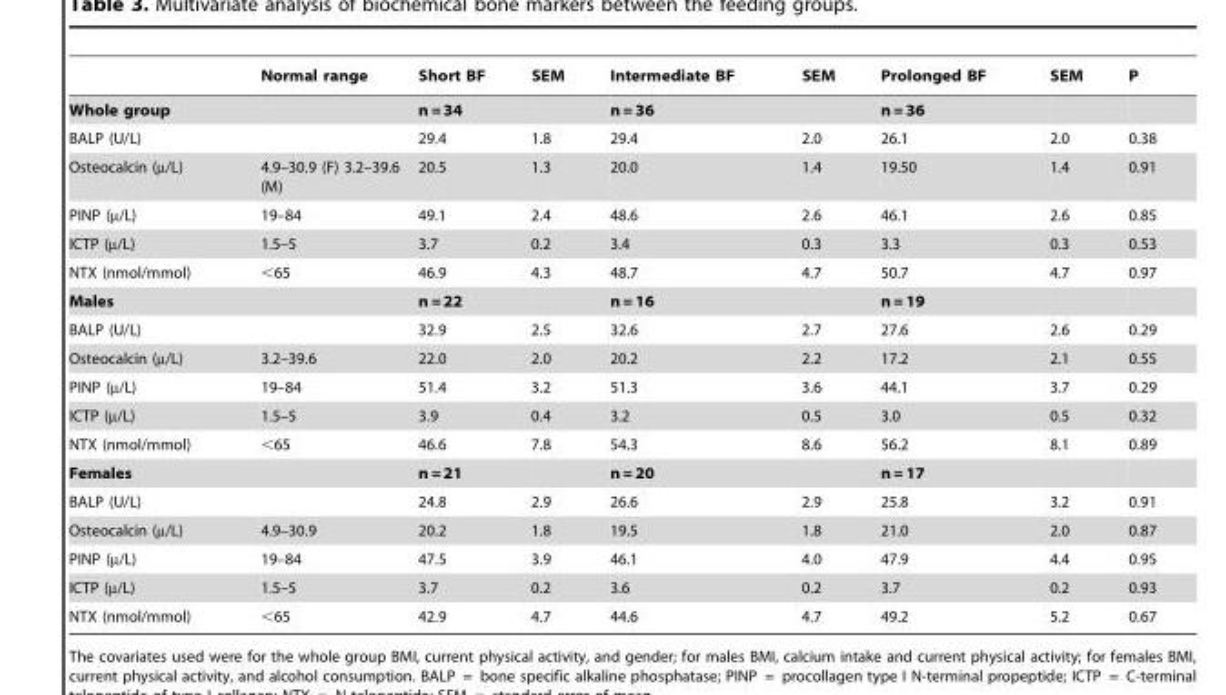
<table><thead><tr><td></td><td>Normal range</td><td>Short BF</td><td>SEM</td><td>Intermediate BF</td><td>SEM</td><td>Prolonged BF</td><td>SEM</td><td>P</td></tr></thead><tbody><tr><td colspan="2">Whole group</td><td>n = 34</td><td></td><td>n = 36</td><td></td><td>n = 36</td><td></td><td></td></tr><tr><td>BALP (U/L)</td><td></td><td>29.4</td><td>1.8</td><td>29.4</td><td>2.0</td><td>26.1</td><td>2.0</td><td>0.38</td></tr><tr><td>Osteocalcin (µ/L)</td><td>4.9–30.9 (F) 3.2–39.6 (M)</td><td>20.5</td><td>1.3</td><td>20.0</td><td>1.4</td><td>19.50</td><td>1.4</td><td>0.91</td></tr><tr><td>PINP (µ/L)</td><td>19–84</td><td>49.1</td><td>2.4</td><td>48.6</td><td>2.6</td><td>46.1</td><td>2.6</td><td>0.85</td></tr><tr><td>ICTP (µ/L)</td><td>1.5–5</td><td>3.7</td><td>0.2</td><td>3.4</td><td>0.3</td><td>3.3</td><td>0.3</td><td>0.53</td></tr><tr><td>NTX (nmol/mmol)</td><td>&lt;65</td><td>46.9</td><td>4.3</td><td>48.7</td><td>4.7</td><td>50.7</td><td>4.7</td><td>0.97</td></tr><tr><td colspan="2">Males</td><td>n = 22</td><td></td><td>n = 16</td><td></td><td>n = 19</td><td></td><td></td></tr><tr><td>BALP (U/L)</td><td></td><td>32.9</td><td>2.5</td><td>32.6</td><td>2.7</td><td>27.6</td><td>2.6</td><td>0.29</td></tr><tr><td>Osteocalcin (µ/L)</td><td>3.2–39.6</td><td>22.0</td><td>2.0</td><td>20.2</td><td>2.2</td><td>17.2</td><td>2.1</td><td>0.55</td></tr><tr><td>PINP (µ/L)</td><td>19–84</td><td>51.4</td><td>3.2</td><td>51.3</td><td>3.6</td><td>44.1</td><td>3.7</td><td>0.29</td></tr><tr><td>ICTP (µ/L)</td><td>1.5–5</td><td>3.9</td><td>0.4</td><td>3.2</td><td>0.5</td><td>3.0</td><td>0.5</td><td>0.32</td></tr><tr><td>NTX (nmol/mmol)</td><td>&lt;65</td><td>46.6</td><td>7.8</td><td>54.3</td><td>8.6</td><td>56.2</td><td>8.1</td><td>0.89</td></tr><tr><td colspan="2">Females</td><td>n = 21</td><td></td><td>n = 20</td><td></td><td>n = 17</td><td></td><td></td></tr><tr><td>BALP (U/L)</td><td></td><td>24.8</td><td>2.9</td><td>26.6</td><td>2.9</td><td>25.8</td><td>3.2</td><td>0.91</td></tr><tr><td>Osteocalcin (µ/L)</td><td>4.9–30.9</td><td>20.2</td><td>1.8</td><td>19.5</td><td>1.8</td><td>21.0</td><td>2.0</td><td>0.87</td></tr><tr><td>PINP (µ/L)</td><td>19–84</td><td>47.5</td><td>3.9</td><td>46.1</td><td>4.0</td><td>47.9</td><td>4.4</td><td>0.95</td></tr><tr><td>ICTP (µ/L)</td><td>1.5–5</td><td>3.7</td><td>0.2</td><td>3.6</td><td>0.2</td><td>3.7</td><td>0.2</td><td>0.93</td></tr><tr><td>NTX (nmol/mmol)</td><td>&lt;65</td><td>42.9</td><td>4.7</td><td>44.6</td><td>4.7</td><td>49.2</td><td>5.2</td><td>0.67</td></tr></tbody></table>